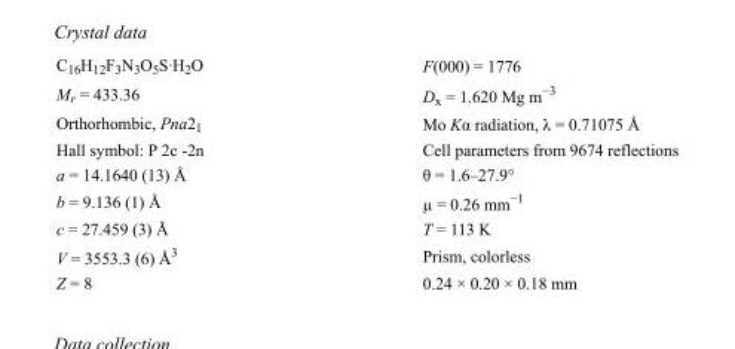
<table><tbody><tr><td>C<sub>16</sub>H<sub>12</sub>F<sub>3</sub>N<sub>3</sub>O<sub>5</sub>S·H<sub>2</sub>O</td><td>F(000) = 1776</td></tr><tr><td>M<sub>r</sub> = 433.36</td><td>D<sub>x</sub> = 1.620 Mg m<sup>−3</sup></td></tr><tr><td>Orthorhombic, Pna2<sub>1</sub></td><td>Mo Kα radiation, λ = 0.71075 Å</td></tr><tr><td>Hall symbol: P 2c -2n</td><td>Cell parameters from 9674 reflections</td></tr><tr><td>a = 14.1640 (13) Å</td><td>θ = 1.6–27.9°</td></tr><tr><td>b = 9.136 (1) Å</td><td>µ = 0.26 mm<sup>−1</sup></td></tr><tr><td>c = 27.459 (3) Å</td><td>T = 113 K</td></tr><tr><td>V = 3553.3 (6) Å<sup>3</sup></td><td>Prism, colorless</td></tr><tr><td>Z = 8</td><td>0.24 × 0.20 × 0.18 mm</td></tr></tbody></table>